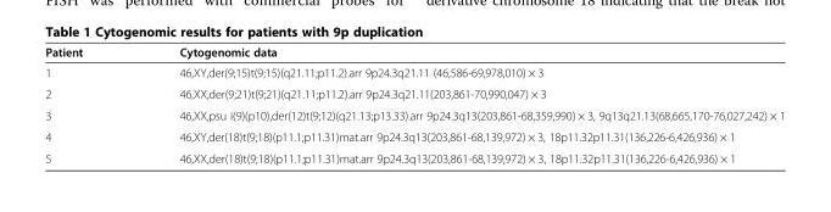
<table><thead><tr><td>Patient</td><td>Cytogenomic data</td></tr></thead><tbody><tr><td>1</td><td>46,XY,der(9;15)t(9;15)(q21.11;p11.2).arr 9p24.3q21.11 (46,586-69,978,010) × 3</td></tr><tr><td>2</td><td>46,XX,der(9;21)t(9;21)(q21.11;p11.2).arr 9p24.3q21.11(203,861-70,990,047) × 3</td></tr><tr><td>3</td><td>46,XX,psu i(9)(p10),der(12)t(9;12)(q21.13;p13.33).arr 9p24.3q13(203,861-68,359,990) × 3, 9q13q21.13(68,665,170-76,027,242) × 1</td></tr><tr><td>4</td><td>46,XY,der(18)t(9;18)(p11.1;p11.31)mat.arr 9p24.3q13(203,861-68,139,972) × 3, 18p11.32p11.31(136,226-6,426,936) × 1</td></tr><tr><td>5</td><td>46,XX,der(18)t(9;18)(p11.1;p11.31)mat.arr 9p24.3q13(203,861-68,139,972) × 3, 18p11.32p11.31(136,226-6,426,936) × 1</td></tr></tbody></table>